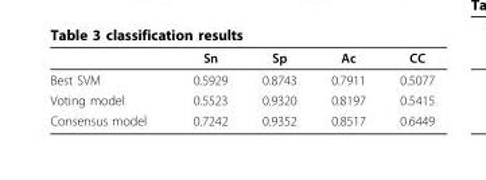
<table><thead><tr><td></td><td>Sn</td><td>Sp</td><td>Ac</td><td>CC</td></tr></thead><tbody><tr><td>Best SVM</td><td>0.5929</td><td>0.8743</td><td>0.7911</td><td>0.5077</td></tr><tr><td>Voting model</td><td>0.5523</td><td>0.9320</td><td>0.8197</td><td>0.5415</td></tr><tr><td>Consensus model</td><td>0.7242</td><td>0.9352</td><td>0.8517</td><td>0.6449</td></tr></tbody></table>